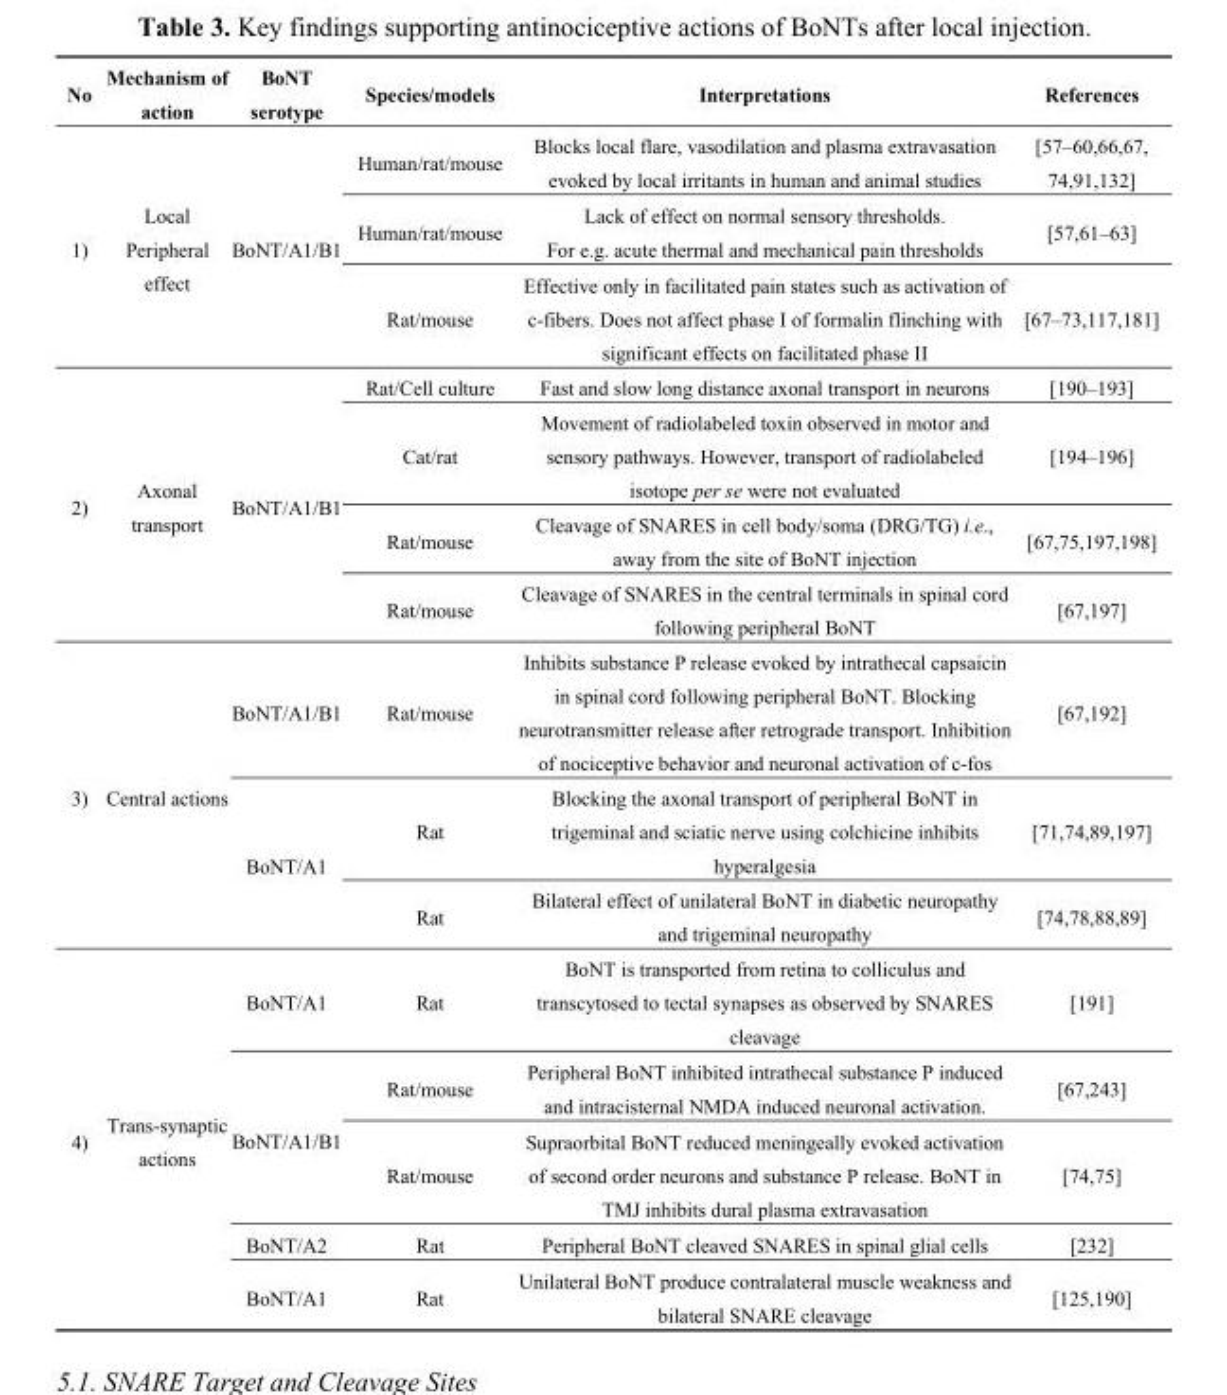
<table><thead><tr><td>No</td><td>Mechanism of action</td><td>BoNT serotype</td><td>Species/models</td><td>Interpretations</td><td>References</td></tr></thead><tbody><tr><td rowspan="3">1)</td><td rowspan="3">Local Peripheral effect</td><td rowspan="3">BoNT/A1/B1</td><td>Human/rat/mouse</td><td>Blocks local flare, vasodilation and plasma extravasation evoked by local irritants in human and animal studies</td><td>[57–60,66,67, 74,91,132]</td></tr><tr><td>Human/rat/mouse</td><td>Lack of effect on normal sensory thresholds. For e.g. acute thermal and mechanical pain thresholds</td><td>[57,61–63]</td></tr><tr><td>Rat/mouse</td><td>Effective only in facilitated pain states such as activation of c-fibers. Does not affect phase I of formalin flinching with significant effects on facilitated phase II</td><td>[67–73,117,181]</td></tr><tr><td rowspan="4">2)</td><td rowspan="4">Axonal transport</td><td rowspan="4">BoNT/A1/B1</td><td>Rat/Cell culture</td><td>Fast and slow long distance axonal transport in neurons</td><td>[190–193]</td></tr><tr><td>Cat/rat</td><td>Movement of radiolabeled toxin observed in motor and sensory pathways. However, transport of radiolabeled isotope per se were not evaluated</td><td>[194–196]</td></tr><tr><td>Rat/mouse</td><td>Cleavage of SNARES in cell body/soma (DRG/TG) i.e., away from the site of BoNT injection</td><td>[67,75,197,198]</td></tr><tr><td>Rat/mouse</td><td>Cleavage of SNARES in the central terminals in spinal cord following peripheral BoNT</td><td>[67,197]</td></tr><tr><td rowspan="3">3)</td><td rowspan="3">Central actions</td><td>BoNT/A1/B1</td><td>Rat/mouse</td><td>Inhibits substance P release evoked by intrathecal capsaicin in spinal cord following peripheral BoNT. Blocking neurotransmitter release after retrograde transport. Inhibition of nociceptive behavior and neuronal activation of c-fos</td><td>[67,192]</td></tr><tr><td rowspan="2">BoNT/A1</td><td>Rat</td><td>Blocking the axonal transport of peripheral BoNT in trigeminal and sciatic nerve using colchicine inhibits hyperalgesia</td><td>[71,74,89,197]</td></tr><tr><td>Rat</td><td>Bilateral effect of unilateral BoNT in diabetic neuropathy and trigeminal neuropathy</td><td>[74,78,88,89]</td></tr><tr><td rowspan="5">4)</td><td rowspan="5">Trans-synaptic actions</td><td>BoNT/A1</td><td>Rat</td><td>BoNT is transported from retina to colliculus and transcytosed to tectal synapses as observed by SNARES cleavage</td><td>[191]</td></tr><tr><td rowspan="2">BoNT/A1/B1</td><td>Rat/mouse</td><td>Peripheral BoNT inhibited intrathecal substance P induced and intracisternal NMDA induced neuronal activation.</td><td>[67,243]</td></tr><tr><td>Rat/mouse</td><td>Supraorbital BoNT reduced meningeally evoked activation of second order neurons and substance P release. BoNT in TMJ inhibits dural plasma extravasation</td><td>[74,75]</td></tr><tr><td>BoNT/A2</td><td>Rat</td><td>Peripheral BoNT cleaved SNARES in spinal glial cells</td><td>[232]</td></tr><tr><td>BoNT/A1</td><td>Rat</td><td>Unilateral BoNT produce contralateral muscle weakness and bilateral SNARE cleavage</td><td>[125,190]</td></tr></tbody></table>